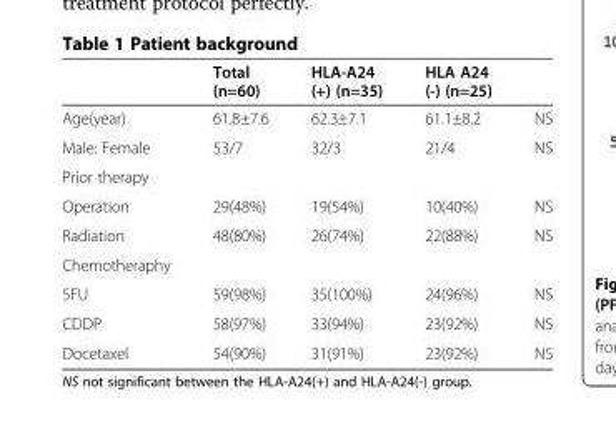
<table><thead><tr><td></td><td>Total (n=60)</td><td>HLA-A24 (+) (n=35)</td><td>HLA A24 (-) (n=25)</td><td></td></tr></thead><tbody><tr><td>Age(year)</td><td>61.8±7.6</td><td>62.3±7.1</td><td>61.1±8.2</td><td>NS</td></tr><tr><td>Male: Female</td><td>53/7</td><td>32/3</td><td>21/4</td><td>NS</td></tr><tr><td colspan="5">Prior therapy</td></tr><tr><td>Operation</td><td>29(48%)</td><td>19(54%)</td><td>10(40%)</td><td>NS</td></tr><tr><td>Radiation</td><td>48(80%)</td><td>26(74%)</td><td>22(88%)</td><td>NS</td></tr><tr><td colspan="5">Chemotheraphy</td></tr><tr><td>5FU</td><td>59(98%)</td><td>35(100%)</td><td>24(96%)</td><td>NS</td></tr><tr><td>CDDP</td><td>58(97%)</td><td>33(94%)</td><td>23(92%)</td><td>NS</td></tr><tr><td>Docetaxel</td><td>54(90%)</td><td>31(91%)</td><td>23(92%)</td><td>NS</td></tr></tbody></table>